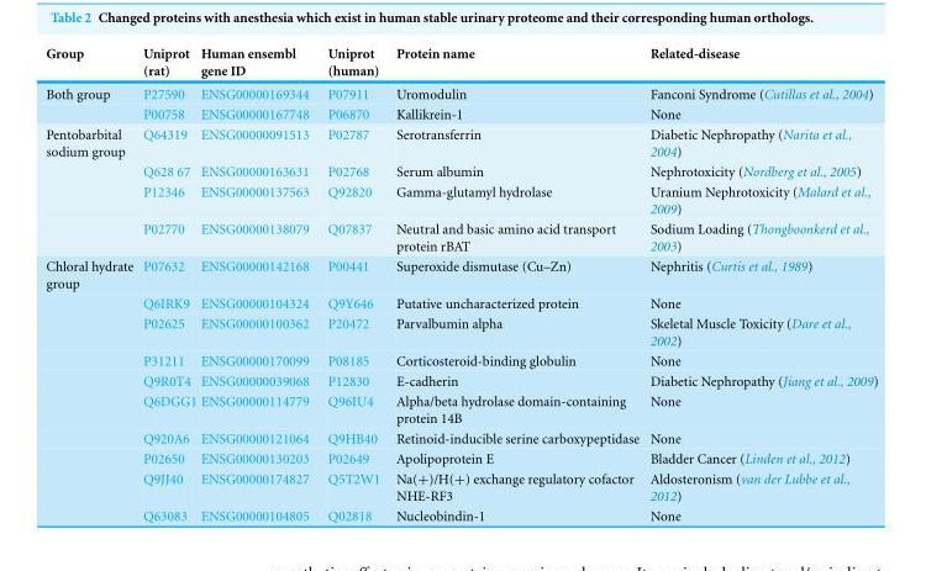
<table><thead><tr><td>Group</td><td>Uniprot (rat)</td><td>Human ensembl gene ID</td><td>Uniprot (human)</td><td>Protein name</td><td>Related-disease</td></tr></thead><tbody><tr><td rowspan="2">Both group</td><td>P27590</td><td>ENSG00000169344</td><td>P07911</td><td>Uromodulin</td><td>Fanconi Syndrome (Cutillas et al., 2004)</td></tr><tr><td>P00758</td><td>ENSG00000167748</td><td>P06870</td><td>Kallikrein-1</td><td>None</td></tr><tr><td rowspan="4">Pentobarbital sodium group</td><td>Q64319</td><td>ENSG00000091513</td><td>P02787</td><td>Serotransferrin</td><td>Diabetic Nephropathy (Narita et al., 2004)</td></tr><tr><td>Q628 67</td><td>ENSG00000163631</td><td>P02768</td><td>Serum albumin</td><td>Nephrotoxicity (Nordberg et al., 2005)</td></tr><tr><td>P12346</td><td>ENSG00000137563</td><td>Q92820</td><td>Gamma-glutamyl hydrolase</td><td>Uranium Nephrotoxicity (Malard et al., 2009)</td></tr><tr><td>P02770</td><td>ENSG00000138079</td><td>Q07837</td><td>Neutral and basic amino acid transport protein rBAT</td><td>Sodium Loading (Thongboonkerd et al., 2003)</td></tr><tr><td rowspan="10">Chloral hydrate group</td><td>P07632</td><td>ENSG00000142168</td><td>P00441</td><td>Superoxide dismutase (Cu–Zn)</td><td>Nephritis (Curtis et al., 1989)</td></tr><tr><td>Q6IRK9</td><td>ENSG00000104324</td><td>Q9Y646</td><td>Putative uncharacterized protein</td><td>None</td></tr><tr><td>P02625</td><td>ENSG00000100362</td><td>P20472</td><td>Parvalbumin alpha</td><td>Skeletal Muscle Toxicity (Dare et al., 2002)</td></tr><tr><td>P31211</td><td>ENSG00000170099</td><td>P08185</td><td>Corticosteroid-binding globulin</td><td>None</td></tr><tr><td>Q9R0T4</td><td>ENSG00000039068</td><td>P12830</td><td>E-cadherin</td><td>Diabetic Nephropathy (Jiang et al., 2009)</td></tr><tr><td>Q6DGG1</td><td>ENSG00000114779</td><td>Q96IU4</td><td>Alpha/beta hydrolase domain-containing protein 14B</td><td>None</td></tr><tr><td>Q920A6</td><td>ENSG00000121064</td><td>Q9HB40</td><td>Retinoid-inducible serine carboxypeptidase</td><td>None</td></tr><tr><td>P02650</td><td>ENSG00000130203</td><td>P02649</td><td>Apolipoprotein E</td><td>Bladder Cancer (Linden et al., 2012)</td></tr><tr><td>Q9JJ40</td><td>ENSG00000174827</td><td>Q5T2W1</td><td>Na(+)/H(+) exchange regulatory cofactor NHE-RF3</td><td>Aldosteronism (van der Lubbe et al., 2012)</td></tr><tr><td>Q63083</td><td>ENSG00000104805</td><td>Q02818</td><td>Nucleobindin-1</td><td>None</td></tr></tbody></table>